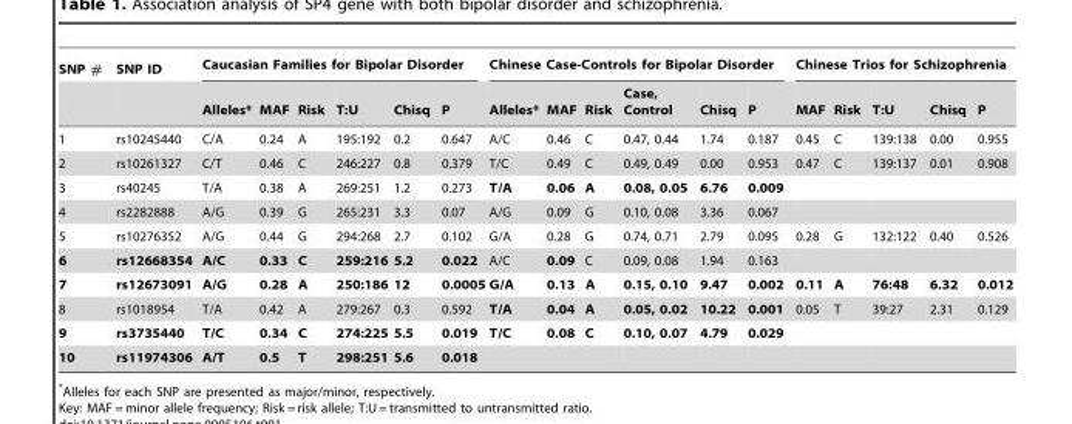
<table><thead><tr><td rowspan="2">SNP #</td><td rowspan="2">SNP ID</td><td colspan="6">Caucasian Families for Bipolar Disorder</td><td colspan="6">Chinese Case-Controls for Bipolar Disorder</td><td colspan="5">Chinese Trios for Schizophrenia</td></tr><tr><td>Alleles*</td><td>MAF</td><td>Risk</td><td>T:U</td><td>Chisq</td><td>P</td><td>Alleles*</td><td>MAF</td><td>Risk</td><td>Case, Control</td><td>Chisq</td><td>P</td><td>MAF</td><td>Risk</td><td>T:U</td><td>Chisq</td><td>P</td></tr></thead><tbody><tr><td>1</td><td>rs10245440</td><td>C/A</td><td>0.24</td><td>A</td><td>195:192</td><td>0.2</td><td>0.647</td><td>A/C</td><td>0.46</td><td>C</td><td>0.47, 0.44</td><td>1.74</td><td>0.187</td><td>0.45</td><td>C</td><td>139:138</td><td>0.00</td><td>0.955</td></tr><tr><td>2</td><td>rs10261327</td><td>C/T</td><td>0.46</td><td>C</td><td>246:227</td><td>0.8</td><td>0.379</td><td>T/C</td><td>0.49</td><td>C</td><td>0.49, 0.49</td><td>0.00</td><td>0.953</td><td>0.47</td><td>C</td><td>139:137</td><td>0.01</td><td>0.908</td></tr><tr><td>3</td><td>rs40245</td><td>T/A</td><td>0.38</td><td>A</td><td>269:251</td><td>1.2</td><td>0.273</td><td>T/A</td><td>0.06</td><td>A</td><td>0.08, 0.05</td><td>6.76</td><td>0.009</td><td></td><td></td><td></td><td></td><td></td></tr><tr><td>4</td><td>rs2282888</td><td>A/G</td><td>0.39</td><td>G</td><td>265:231</td><td>3.3</td><td>0.07</td><td>A/G</td><td>0.09</td><td>G</td><td>0.10, 0.08</td><td>3.36</td><td>0.067</td><td></td><td></td><td></td><td></td><td></td></tr><tr><td>5</td><td>rs10276352</td><td>A/G</td><td>0.44</td><td>G</td><td>294:268</td><td>2.7</td><td>0.102</td><td>G/A</td><td>0.28</td><td>G</td><td>0.74, 0.71</td><td>2.79</td><td>0.095</td><td>0.28</td><td>G</td><td>132:122</td><td>0.40</td><td>0.526</td></tr><tr><td>6</td><td>rs12668354</td><td>A/C</td><td>0.33</td><td>C</td><td>259:216</td><td>5.2</td><td>0.022</td><td>A/C</td><td>0.09</td><td>C</td><td>0.09, 0.08</td><td>1.94</td><td>0.163</td><td></td><td></td><td></td><td></td><td></td></tr><tr><td>7</td><td>rs12673091</td><td>A/G</td><td>0.28</td><td>A</td><td>250:186</td><td>12</td><td>0.0005</td><td>G/A</td><td>0.13</td><td>A</td><td>0.15, 0.10</td><td>9.47</td><td>0.002</td><td>0.11</td><td>A</td><td>76:48</td><td>6.32</td><td>0.012</td></tr><tr><td>8</td><td>rs1018954</td><td>T/A</td><td>0.42</td><td>A</td><td>279:267</td><td>0.3</td><td>0.592</td><td>T/A</td><td>0.04</td><td>A</td><td>0.05, 0.02</td><td>10.22</td><td>0.001</td><td>0.05</td><td>T</td><td>39:27</td><td>2.31</td><td>0.129</td></tr><tr><td>9</td><td>rs3735440</td><td>T/C</td><td>0.34</td><td>C</td><td>274:225</td><td>5.5</td><td>0.019</td><td>T/C</td><td>0.08</td><td>C</td><td>0.10, 0.07</td><td>4.79</td><td>0.029</td><td></td><td></td><td></td><td></td><td></td></tr><tr><td>10</td><td>rs11974306</td><td>A/T</td><td>0.5</td><td>T</td><td>298:251</td><td>5.6</td><td>0.018</td><td></td><td></td><td></td><td></td><td></td><td></td><td></td><td></td><td></td><td></td><td></td></tr></tbody></table>